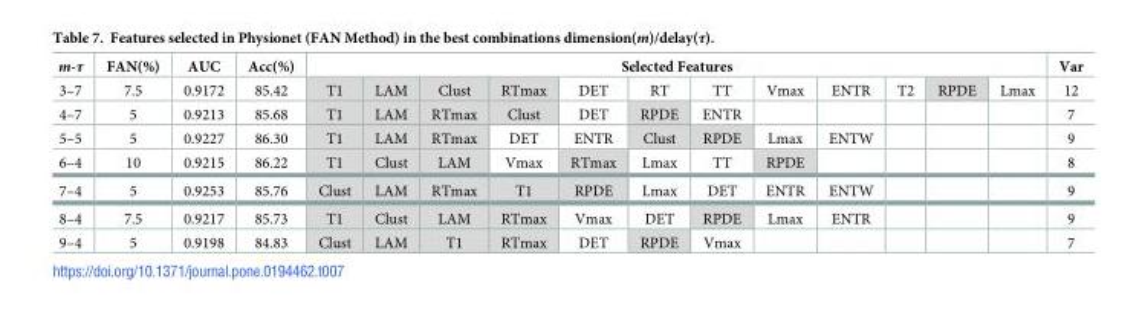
<table><thead><tr><td rowspan="2">m-τ 3–7</td><td rowspan="2">FAN(%) 7.5</td><td rowspan="2">AUC 0.9172</td><td rowspan="2">Acc(%) 85.42</td><td colspan="12">Selected Features</td><td rowspan="2">Var 12</td></tr><tr><td>T1</td><td>LAM</td><td>Clust</td><td>RTmax</td><td>DET</td><td>RT</td><td>TT</td><td>Vmax</td><td>ENTR</td><td>T2</td><td>RPDE</td><td>Lmax</td></tr></thead><tbody><tr><td>4–7</td><td>5</td><td>0.9213</td><td>85.68</td><td>T1</td><td>LAM</td><td>RTmax</td><td>Clust</td><td>DET</td><td>RPDE</td><td>ENTR</td><td></td><td></td><td></td><td></td><td></td><td>7</td></tr><tr><td>5–5</td><td>5</td><td>0.9227</td><td>86.30</td><td>T1</td><td>LAM</td><td>RTmax</td><td>DET</td><td>ENTR</td><td>Clust</td><td>RPDE</td><td>Lmax</td><td>ENTW</td><td></td><td></td><td></td><td>9</td></tr><tr><td>6–4</td><td>10</td><td>0.9215</td><td>86.22</td><td>T1</td><td>Clust</td><td>LAM</td><td>Vmax</td><td>RTmax</td><td>Lmax</td><td>TT</td><td>RPDE</td><td></td><td></td><td></td><td></td><td>8</td></tr><tr><td>7–4</td><td>5</td><td>0.9253</td><td>85.76</td><td>Clust</td><td>LAM</td><td>RTmax</td><td>T1</td><td>RPDE</td><td>Lmax</td><td>DET</td><td>ENTR</td><td>ENTW</td><td></td><td></td><td></td><td>9</td></tr><tr><td>8–4</td><td>7.5</td><td>0.9217</td><td>85.73</td><td>T1</td><td>Clust</td><td>LAM</td><td>RTmax</td><td>Vmax</td><td>DET</td><td>RPDE</td><td>Lmax</td><td>ENTR</td><td></td><td></td><td></td><td>9</td></tr><tr><td>9–4</td><td>5</td><td>0.9198</td><td>84.83</td><td>Clust</td><td>LAM</td><td>T1</td><td>RTmax</td><td>DET</td><td>RPDE</td><td>Vmax</td><td></td><td></td><td></td><td></td><td></td><td>7</td></tr></tbody></table>